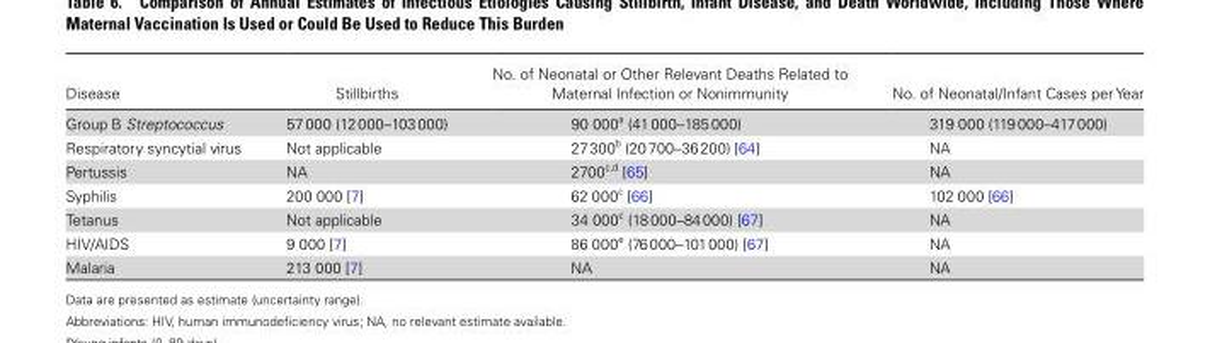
<table><thead><tr><td>Disease</td><td>Stillbirths</td><td>No. of Neonatal or Other Relevant Deaths Related to Maternal Infection or Nonimmunity</td><td>No. of Neonatal/Infant Cases per Year</td></tr></thead><tbody><tr><td>Group B Streptococcus</td><td>57 000 (12 000–103 000)</td><td>90 000<sup>a</sup> (41 000–185 000)</td><td>319 000 (119 000–417 000)</td></tr><tr><td>Respiratory syncytial virus</td><td>Not applicable</td><td>27 300<sup>b</sup> (20 700–36 200) [64]</td><td>NA</td></tr><tr><td>Pertussis</td><td>NA</td><td>2700<sup>c,d</sup> [65]</td><td>NA</td></tr><tr><td>Syphilis</td><td>200 000 [7]</td><td>62 000<sup>c</sup> [66]</td><td>102 000 [66]</td></tr><tr><td>Tetanus</td><td>Not applicable</td><td>34 000<sup>c</sup> (18 000–84 000) [67]</td><td>NA</td></tr><tr><td>HIV/AIDS</td><td>9 000 [7]</td><td>86 000<sup>e</sup> (76 000–101 000) [67]</td><td>NA</td></tr><tr><td>Malaria</td><td>213 000 [7]</td><td>NA</td><td>NA</td></tr></tbody></table>